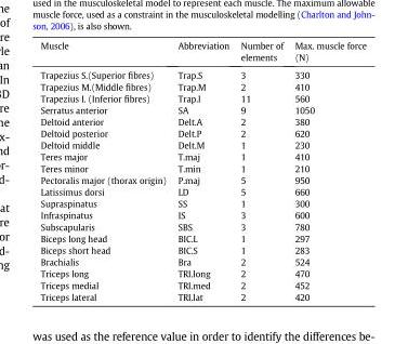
<table><thead><tr><td>Muscle</td><td>Abbreviation</td><td>Number of elements</td><td>Max. muscle force (N)</td></tr></thead><tbody><tr><td>Trapezius S.(Superior fibres)</td><td>Trap.S</td><td>3</td><td>330</td></tr><tr><td>Trapezius M.(Middle fibres)</td><td>Trap.M</td><td>2</td><td>410</td></tr><tr><td>Trapezius I. (Inferior fibres)</td><td>Trap.I</td><td>11</td><td>560</td></tr><tr><td>Serratus anterior</td><td>SA</td><td>9</td><td>1050</td></tr><tr><td>Deltoid anterior</td><td>Delt.A</td><td>2</td><td>380</td></tr><tr><td>Deltoid posterior</td><td>Delt.P</td><td>2</td><td>620</td></tr><tr><td>Deltoid middle</td><td>Delt.M</td><td>1</td><td>230</td></tr><tr><td>Teres major</td><td>T.maj</td><td>1</td><td>410</td></tr><tr><td>Teres minor</td><td>T.min</td><td>1</td><td>210</td></tr><tr><td>Pectoralis major (thorax origin)</td><td>P.maj</td><td>5</td><td>950</td></tr><tr><td>Latissimus dorsi</td><td>LD</td><td>5</td><td>660</td></tr><tr><td>Supraspinatus</td><td>SS</td><td>1</td><td>300</td></tr><tr><td>Infraspinatus</td><td>IS</td><td>3</td><td>600</td></tr><tr><td>Subscapularis</td><td>SBS</td><td>3</td><td>780</td></tr><tr><td>Biceps long head</td><td>BIC.L</td><td>1</td><td>297</td></tr><tr><td>Biceps short head</td><td>BIC.S</td><td>1</td><td>283</td></tr><tr><td>Brachialis</td><td>Bra</td><td>2</td><td>524</td></tr><tr><td>Triceps long</td><td>TRI.long</td><td>2</td><td>470</td></tr><tr><td>Triceps medial</td><td>TRI.med</td><td>2</td><td>452</td></tr><tr><td>Triceps lateral</td><td>TRI.lat</td><td>2</td><td>420</td></tr></tbody></table>